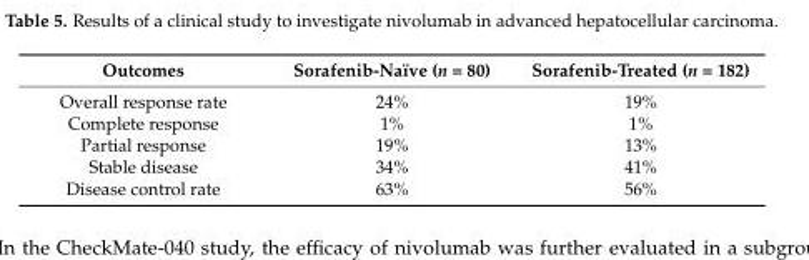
<table><thead><tr><td>Outcomes</td><td>Sorafenib-Naïve (n = 80)</td><td>Sorafenib-Treated (n = 182)</td></tr></thead><tbody><tr><td>Overall response rate</td><td>24%</td><td>19%</td></tr><tr><td>Complete response</td><td>1%</td><td>1%</td></tr><tr><td>Partial response</td><td>19%</td><td>13%</td></tr><tr><td>Stable disease</td><td>34%</td><td>41%</td></tr><tr><td>Disease control rate</td><td>63%</td><td>56%</td></tr></tbody></table>